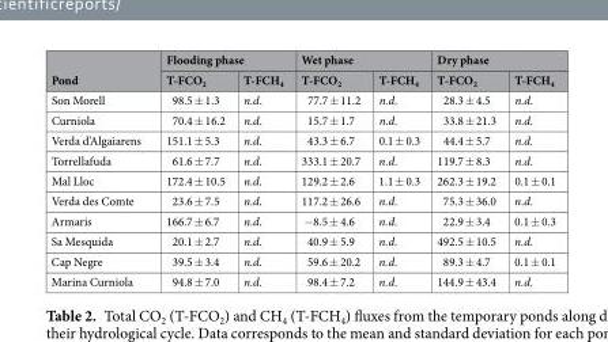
<table><thead><tr><td rowspan="2">Pond</td><td colspan="2">Flooding phase</td><td colspan="2">Wet phase</td><td colspan="2">Dry phase</td></tr><tr><td>T-FCO<sub>2</sub></td><td>T-FCH<sub>4</sub></td><td>T-FCO<sub>2</sub></td><td>T-FCH<sub>4</sub></td><td>T-FCO<sub>2</sub></td><td>T-FCH<sub>4</sub></td></tr></thead><tbody><tr><td>Son Morell</td><td>98.5 ± 1.3</td><td>n.d.</td><td>77.7 ± 11.2</td><td>n.d.</td><td>28.3 ± 4.5</td><td>n.d.</td></tr><tr><td>Curniola</td><td>70.4 ± 16.2</td><td>n.d.</td><td>15.7 ± 1.7</td><td>n.d.</td><td>33.8 ± 21.3</td><td>n.d.</td></tr><tr><td>Verda d’Algaiarens</td><td>151.1 ± 5.3</td><td>n.d.</td><td>43.3 ± 6.7</td><td>0.1 ± 0.3</td><td>44.4 ± 5.7</td><td>n.d.</td></tr><tr><td>Torrellafuda</td><td>61.6 ± 7.7</td><td>n.d.</td><td>333.1 ± 20.7</td><td>n.d.</td><td>119.7 ± 8.3</td><td>n.d.</td></tr><tr><td>Mal Lloc</td><td>172.4 ± 10.5</td><td>n.d.</td><td>129.2 ± 2.6</td><td>1.1 ± 0.3</td><td>262.3 ± 19.2</td><td>0.1 ± 0.1</td></tr><tr><td>Verda des Comte</td><td>23.6 ± 7.5</td><td>n.d.</td><td>117.2 ± 26.6</td><td>n.d.</td><td>75.3 ± 36.0</td><td>n.d.</td></tr><tr><td>Armaris</td><td>166.7 ± 6.7</td><td>n.d.</td><td>−8.5 ± 4.6</td><td>n.d.</td><td>22.9 ± 3.4</td><td>0.1 ± 0.3</td></tr><tr><td>Sa Mesquida</td><td>20.1 ± 2.7</td><td>n.d.</td><td>40.9 ± 5.9</td><td>n.d.</td><td>492.5 ± 10.5</td><td>n.d.</td></tr><tr><td>Cap Negre</td><td>39.5 ± 3.4</td><td>n.d.</td><td>59.6 ± 20.2</td><td>n.d.</td><td>89.3 ± 4.7</td><td>0.1 ± 0.1</td></tr><tr><td>Marina Curniola</td><td>94.8 ± 7.0</td><td>n.d.</td><td>98.4 ± 7.2</td><td>n.d.</td><td>144.9 ± 43.4</td><td>n.d.</td></tr></tbody></table>